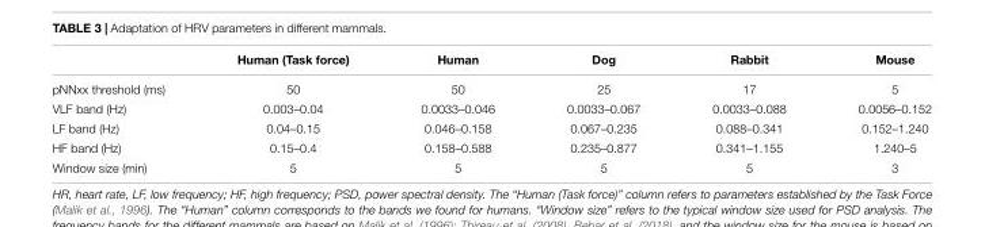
<table><thead><tr><td></td><td>Human (Task force)</td><td>Human</td><td>Dog</td><td>Rabbit</td><td>Mouse</td></tr></thead><tbody><tr><td>pNNxx threshold (ms)</td><td>50</td><td>50</td><td>25</td><td>17</td><td>5</td></tr><tr><td>VLF band (Hz)</td><td>0.003–0.04</td><td>0.0033–0.046</td><td>0.0033–0.067</td><td>0.0033–0.088</td><td>0.0056–0.152</td></tr><tr><td>LF band (Hz)</td><td>0.04–0.15</td><td>0.046–0.158</td><td>0.067–0.235</td><td>0.088–0.341</td><td>0.152–1.240</td></tr><tr><td>HF band (Hz)</td><td>0.15–0.4</td><td>0.158–0.588</td><td>0.235–0.877</td><td>0.341–1.155</td><td>1.240–5</td></tr><tr><td>Window size (min)</td><td>5</td><td>5</td><td>5</td><td>5</td><td>3</td></tr></tbody></table>